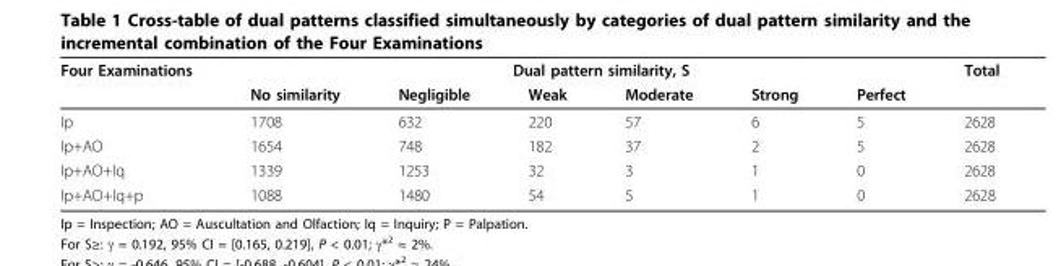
<table><thead><tr><td rowspan="2">Four Examinations</td><td colspan="6">Dual pattern similarity, S</td><td rowspan="2">Total</td></tr><tr><td>No similarity</td><td>Negligible</td><td>Weak</td><td>Moderate</td><td>Strong</td><td>Perfect</td></tr></thead><tbody><tr><td>Ip</td><td>1708</td><td>632</td><td>220</td><td>57</td><td>6</td><td>5</td><td>2628</td></tr><tr><td>Ip+AO</td><td>1654</td><td>748</td><td>182</td><td>37</td><td>2</td><td>5</td><td>2628</td></tr><tr><td>Ip+AO+Iq</td><td>1339</td><td>1253</td><td>32</td><td>3</td><td>1</td><td>0</td><td>2628</td></tr><tr><td>Ip+AO+Iq+p</td><td>1088</td><td>1480</td><td>54</td><td>5</td><td>1</td><td>0</td><td>2628</td></tr></tbody></table>